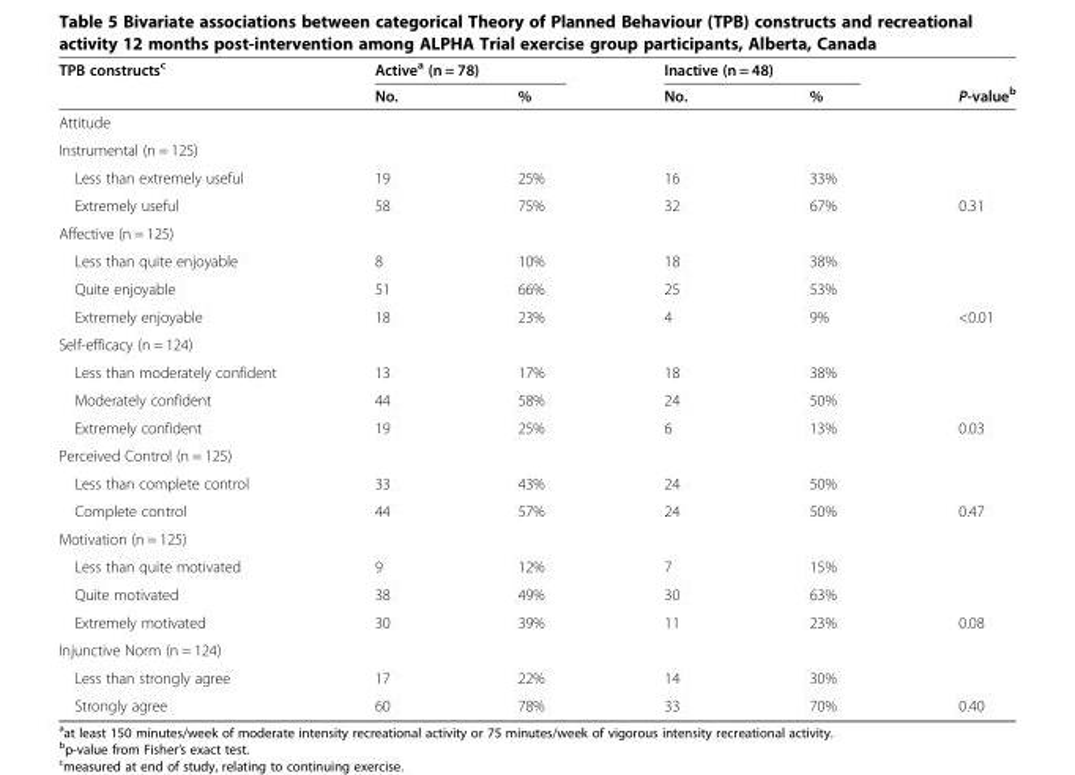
<table><thead><tr><td rowspan="2">TPB constructs<sup>c</sup></td><td colspan="2">Active<sup>a</sup> (n = 78)</td><td colspan="2">Inactive (n = 48)</td><td rowspan="2">P-value<sup>b</sup></td></tr><tr><td>No.</td><td>%</td><td>No.</td><td>%</td></tr></thead><tbody><tr><td colspan="6">Attitude</td></tr><tr><td colspan="6">Instrumental (n = 125)</td></tr><tr><td>Less than extremely useful</td><td>19</td><td>25%</td><td>16</td><td>33%</td><td></td></tr><tr><td>Extremely useful</td><td>58</td><td>75%</td><td>32</td><td>67%</td><td>0.31</td></tr><tr><td colspan="6">Affective (n = 125)</td></tr><tr><td>Less than quite enjoyable</td><td>8</td><td>10%</td><td>18</td><td>38%</td><td></td></tr><tr><td>Quite enjoyable</td><td>51</td><td>66%</td><td>25</td><td>53%</td><td></td></tr><tr><td>Extremely enjoyable</td><td>18</td><td>23%</td><td>4</td><td>9%</td><td>&lt;0.01</td></tr><tr><td colspan="6">Self-efficacy (n = 124)</td></tr><tr><td>Less than moderately confident</td><td>13</td><td>17%</td><td>18</td><td>38%</td><td></td></tr><tr><td>Moderately confident</td><td>44</td><td>58%</td><td>24</td><td>50%</td><td></td></tr><tr><td>Extremely confident</td><td>19</td><td>25%</td><td>6</td><td>13%</td><td>0.03</td></tr><tr><td colspan="6">Perceived Control (n = 125)</td></tr><tr><td>Less than complete control</td><td>33</td><td>43%</td><td>24</td><td>50%</td><td></td></tr><tr><td>Complete control</td><td>44</td><td>57%</td><td>24</td><td>50%</td><td>0.47</td></tr><tr><td colspan="6">Motivation (n = 125)</td></tr><tr><td>Less than quite motivated</td><td>9</td><td>12%</td><td>7</td><td>15%</td><td></td></tr><tr><td>Quite motivated</td><td>38</td><td>49%</td><td>30</td><td>63%</td><td></td></tr><tr><td>Extremely motivated</td><td>30</td><td>39%</td><td>11</td><td>23%</td><td>0.08</td></tr><tr><td colspan="6">Injunctive Norm (n = 124)</td></tr><tr><td>Less than strongly agree</td><td>17</td><td>22%</td><td>14</td><td>30%</td><td></td></tr><tr><td>Strongly agree</td><td>60</td><td>78%</td><td>33</td><td>70%</td><td>0.40</td></tr></tbody></table>